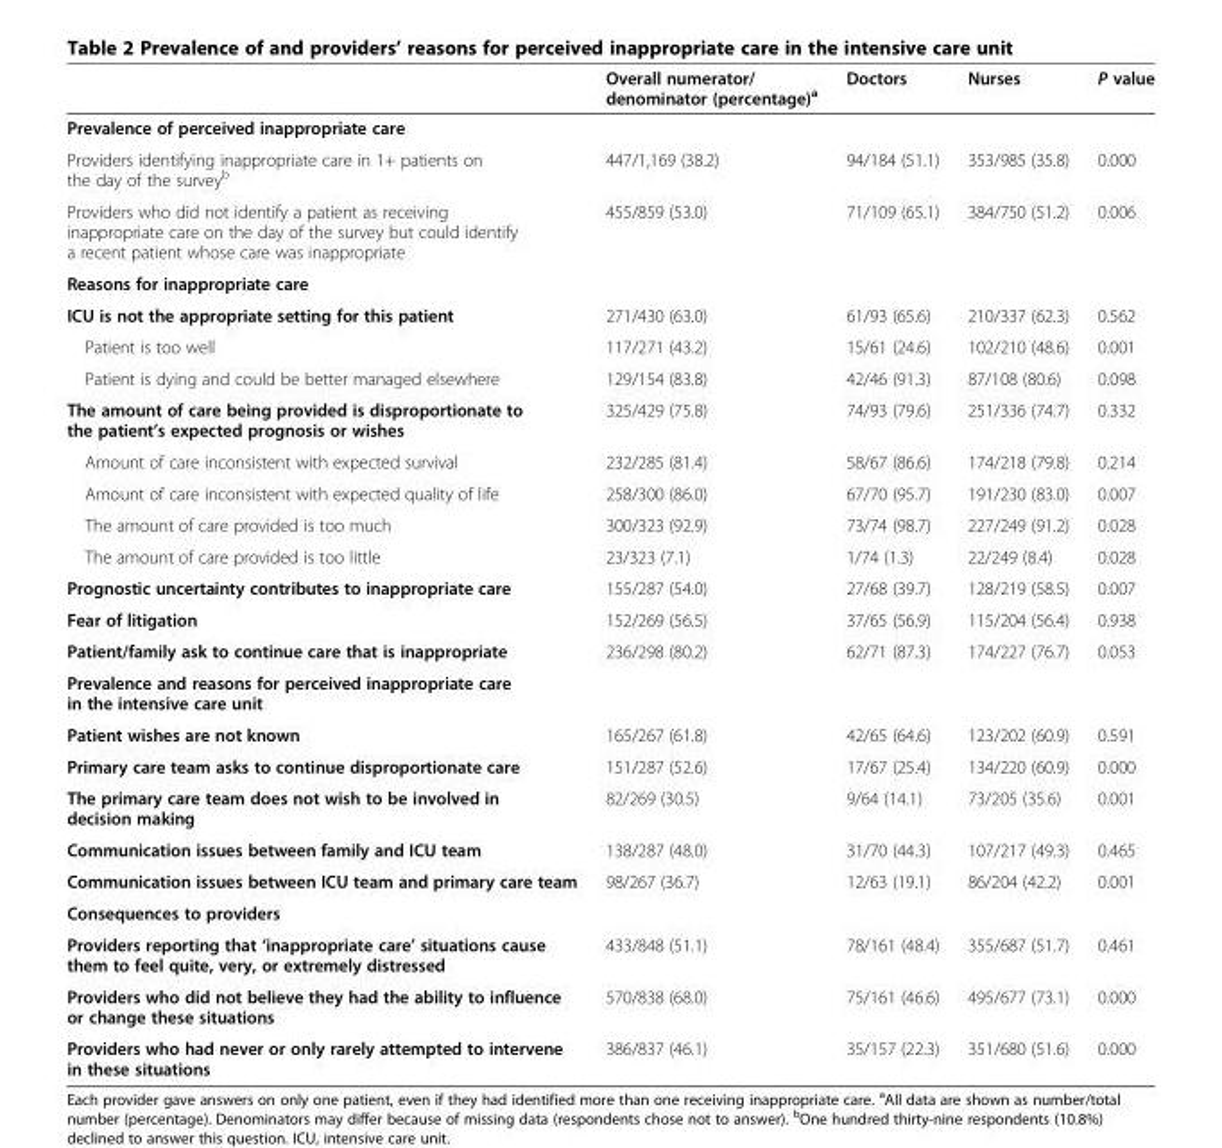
<table><thead><tr><td></td><td>Overall numerator/ denominator (percentage)<sup>a</sup></td><td>Doctors</td><td>Nurses</td><td>P value</td></tr></thead><tbody><tr><td colspan="5">Prevalence of perceived inappropriate care</td></tr><tr><td>Providers identifying inappropriate care in 1+ patients on the day of the survey<sup>b</sup></td><td>447/1,169 (38.2)</td><td>94/184 (51.1)</td><td>353/985 (35.8)</td><td>0.000</td></tr><tr><td>Providers who did not identify a patient as receiving inappropriate care on the day of the survey but could identify a recent patient whose care was inappropriate</td><td>455/859 (53.0)</td><td>71/109 (65.1)</td><td>384/750 (51.2)</td><td>0.006</td></tr><tr><td colspan="5">Reasons for inappropriate care</td></tr><tr><td>ICU is not the appropriate setting for this patient</td><td>271/430 (63.0)</td><td>61/93 (65.6)</td><td>210/337 (62.3)</td><td>0.562</td></tr><tr><td>Patient is too well</td><td>117/271 (43.2)</td><td>15/61 (24.6)</td><td>102/210 (48.6)</td><td>0.001</td></tr><tr><td>Patient is dying and could be better managed elsewhere</td><td>129/154 (83.8)</td><td>42/46 (91.3)</td><td>87/108 (80.6)</td><td>0.098</td></tr><tr><td>The amount of care being provided is disproportionate to the patient’s expected prognosis or wishes</td><td>325/429 (75.8)</td><td>74/93 (79.6)</td><td>251/336 (74.7)</td><td>0.332</td></tr><tr><td>Amount of care inconsistent with expected survival</td><td>232/285 (81.4)</td><td>58/67 (86.6)</td><td>174/218 (79.8)</td><td>0.214</td></tr><tr><td>Amount of care inconsistent with expected quality of life</td><td>258/300 (86.0)</td><td>67/70 (95.7)</td><td>191/230 (83.0)</td><td>0.007</td></tr><tr><td>The amount of care provided is too much</td><td>300/323 (92.9)</td><td>73/74 (98.7)</td><td>227/249 (91.2)</td><td>0.028</td></tr><tr><td>The amount of care provided is too little</td><td>23/323 (7.1)</td><td>1/74 (1.3)</td><td>22/249 (8.4)</td><td>0.028</td></tr><tr><td>Prognostic uncertainty contributes to inappropriate care</td><td>155/287 (54.0)</td><td>27/68 (39.7)</td><td>128/219 (58.5)</td><td>0.007</td></tr><tr><td>Fear of litigation</td><td>152/269 (56.5)</td><td>37/65 (56.9)</td><td>115/204 (56.4)</td><td>0.938</td></tr><tr><td>Patient/family ask to continue care that is inappropriate</td><td>236/298 (80.2)</td><td>62/71 (87.3)</td><td>174/227 (76.7)</td><td>0.053</td></tr><tr><td colspan="5">Prevalence and reasons for perceived inappropriate care in the intensive care unit</td></tr><tr><td>Patient wishes are not known</td><td>165/267 (61.8)</td><td>42/65 (64.6)</td><td>123/202 (60.9)</td><td>0.591</td></tr><tr><td>Primary care team asks to continue disproportionate care</td><td>151/287 (52.6)</td><td>17/67 (25.4)</td><td>134/220 (60.9)</td><td>0.000</td></tr><tr><td>The primary care team does not wish to be involved in decision making</td><td>82/269 (30.5)</td><td>9/64 (14.1)</td><td>73/205 (35.6)</td><td>0.001</td></tr><tr><td>Communication issues between family and ICU team</td><td>138/287 (48.0)</td><td>31/70 (44.3)</td><td>107/217 (49.3)</td><td>0.465</td></tr><tr><td>Communication issues between ICU team and primary care team</td><td>98/267 (36.7)</td><td>12/63 (19.1)</td><td>86/204 (42.2)</td><td>0.001</td></tr><tr><td colspan="5">Consequences to providers</td></tr><tr><td>Providers reporting that ‘inappropriate care’ situations cause them to feel quite, very, or extremely distressed</td><td>433/848 (51.1)</td><td>78/161 (48.4)</td><td>355/687 (51.7)</td><td>0.461</td></tr><tr><td>Providers who did not believe they had the ability to influence or change these situations</td><td>570/838 (68.0)</td><td>75/161 (46.6)</td><td>495/677 (73.1)</td><td>0.000</td></tr><tr><td>Providers who had never or only rarely attempted to intervene in these situations</td><td>386/837 (46.1)</td><td>35/157 (22.3)</td><td>351/680 (51.6)</td><td>0.000</td></tr></tbody></table>